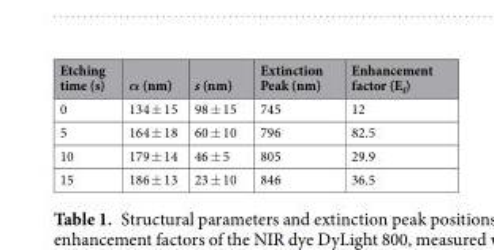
<table><thead><tr><td>Etching time (s)</td><td>α (nm)</td><td>s (nm)</td><td>Extinction Peak (nm)</td><td>Enhancement factor (E<sub>f</sub>)</td></tr></thead><tbody><tr><td>0</td><td>134 ± 15</td><td>98 ± 15</td><td>745</td><td>12</td></tr><tr><td>5</td><td>164 ± 18</td><td>60 ± 10</td><td>796</td><td>82.5</td></tr><tr><td>10</td><td>179 ± 14</td><td>46 ± 5</td><td>805</td><td>29.9</td></tr><tr><td>15</td><td>186 ± 13</td><td>23 ± 10</td><td>846</td><td>36.5</td></tr></tbody></table>